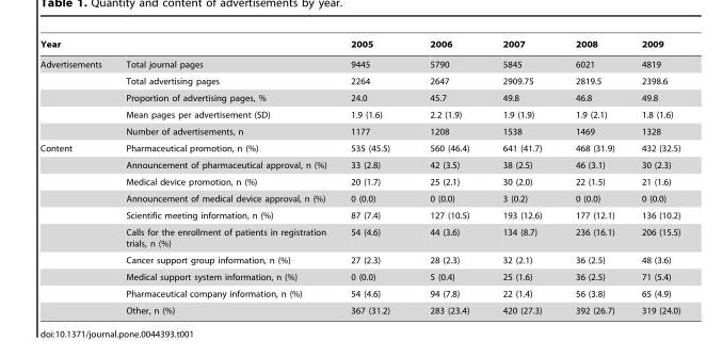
<table><thead><tr><td>Year</td><td></td><td>2005</td><td>2006</td><td>2007</td><td>2008</td><td>2009</td></tr></thead><tbody><tr><td rowspan="5">Advertisements</td><td>Total journal pages</td><td>9445</td><td>5790</td><td>5845</td><td>6021</td><td>4819</td></tr><tr><td>Total advertising pages</td><td>2264</td><td>2647</td><td>2909.75</td><td>2819.5</td><td>2398.6</td></tr><tr><td>Proportion of advertising pages, %</td><td>24.0</td><td>45.7</td><td>49.8</td><td>46.8</td><td>49.8</td></tr><tr><td>Mean pages per advertisement (SD)</td><td>1.9 (1.6)</td><td>2.2 (1.9)</td><td>1.9 (1.9)</td><td>1.9 (2.1)</td><td>1.8 (1.6)</td></tr><tr><td>Number of advertisements, n</td><td>1177</td><td>1208</td><td>1538</td><td>1469</td><td>1328</td></tr><tr><td rowspan="10">Content</td><td>Pharmaceutical promotion, n (%)</td><td>535 (45.5)</td><td>560 (46.4)</td><td>641 (41.7)</td><td>468 (31.9)</td><td>432 (32.5)</td></tr><tr><td>Announcement of pharmaceutical approval, n (%)</td><td>33 (2.8)</td><td>42 (3.5)</td><td>38 (2.5)</td><td>46 (3.1)</td><td>30 (2.3)</td></tr><tr><td>Medical device promotion, n (%)</td><td>20 (1.7)</td><td>25 (2.1)</td><td>30 (2.0)</td><td>22 (1.5)</td><td>21 (1.6)</td></tr><tr><td>Announcement of medical device approval, n (%)</td><td>0 (0.0)</td><td>0 (0.0)</td><td>3 (0.2)</td><td>0 (0.0)</td><td>0 (0.0)</td></tr><tr><td>Scientific meeting information, n (%)</td><td>87 (7.4)</td><td>127 (10.5)</td><td>193 (12.6)</td><td>177 (12.1)</td><td>136 (10.2)</td></tr><tr><td>Calls for the enrollment of patients in registration trials, n (%)</td><td>54 (4.6)</td><td>44 (3.6)</td><td>134 (8.7)</td><td>236 (16.1)</td><td>206 (15.5)</td></tr><tr><td>Cancer support group information, n (%)</td><td>27 (2.3)</td><td>28 (2.3)</td><td>32 (2.1)</td><td>36 (2.5)</td><td>48 (3.6)</td></tr><tr><td>Medical support system information, n (%)</td><td>0 (0.0)</td><td>5 (0.4)</td><td>25 (1.6)</td><td>36 (2.5)</td><td>71 (5.4)</td></tr><tr><td>Pharmaceutical company information, n (%)</td><td>54 (4.6)</td><td>94 (7.8)</td><td>22 (1.4)</td><td>56 (3.8)</td><td>65 (4.9)</td></tr><tr><td>Other, n (%)</td><td>367 (31.2)</td><td>283 (23.4)</td><td>420 (27.3)</td><td>392 (26.7)</td><td>319 (24.0)</td></tr></tbody></table>